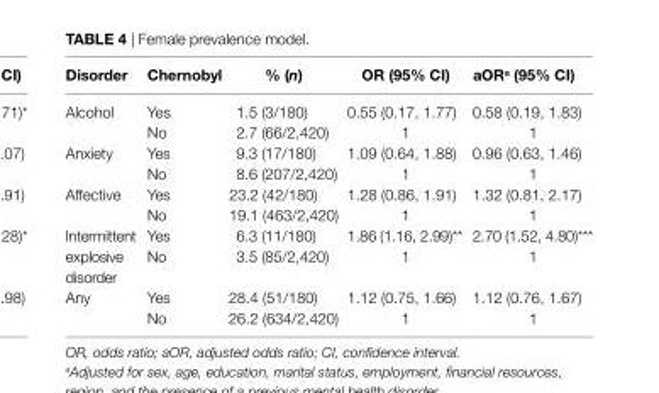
<table><thead><tr><td>Disorder</td><td>chernobyl</td><td>% (n)</td><td>Or (95% ci)</td><td>aOr<sup>a</sup> (95% ci)</td></tr></thead><tbody><tr><td rowspan="2">Alcohol</td><td>Yes</td><td>1.5 (3/180)</td><td>0.55 (0.17, 1.77)</td><td>0.58 (0.19, 1.83)</td></tr><tr><td>No</td><td>2.7 (66/2,420)</td><td>1</td><td>1</td></tr><tr><td rowspan="2">Anxiety</td><td>Yes</td><td>9.3 (17/180)</td><td>1.09 (0.64, 1.88)</td><td>0.96 (0.63, 1.46)</td></tr><tr><td>No</td><td>8.6 (207/2,420)</td><td>1</td><td>1</td></tr><tr><td rowspan="2">Affective</td><td>Yes</td><td>23.2 (42/180)</td><td>1.28 (0.86, 1.91)</td><td>1.32 (0.81, 2.17)</td></tr><tr><td>No</td><td>19.1 (463/2,420)</td><td>1</td><td>1</td></tr><tr><td rowspan="2">Intermittent explosive disorder</td><td>Yes</td><td>6.3 (11/180)</td><td>1.86 (1.16, 2.99)**</td><td>2.70 (1.52, 4.80)***</td></tr><tr><td>No</td><td>3.5 (85/2,420)</td><td>1</td><td>1</td></tr><tr><td rowspan="2">Any</td><td>Yes</td><td>28.4 (51/180)</td><td>1.12 (0.75, 1.66)</td><td>1.12 (0.76, 1.67)</td></tr><tr><td>No</td><td>26.2 (634/2,420)</td><td>1</td><td>1</td></tr></tbody></table>